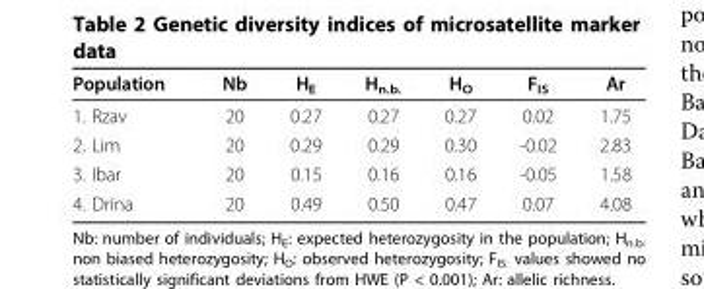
<table><thead><tr><td>Population</td><td>Nb</td><td>H<sub>E</sub></td><td>H<sub>n.b.</sub></td><td>H<sub>O</sub></td><td>F<sub>IS</sub></td><td>Ar</td></tr></thead><tbody><tr><td>1. Rzav</td><td>20</td><td>0.27</td><td>0.27</td><td>0.27</td><td>0.02</td><td>1.75</td></tr><tr><td>2. Lim</td><td>20</td><td>0.29</td><td>0.29</td><td>0.30</td><td>-0.02</td><td>2.83</td></tr><tr><td>3. Ibar</td><td>20</td><td>0.15</td><td>0.16</td><td>0.16</td><td>-0.05</td><td>1.58</td></tr><tr><td>4. Drina</td><td>20</td><td>0.49</td><td>0.50</td><td>0.47</td><td>0.07</td><td>4.08</td></tr></tbody></table>